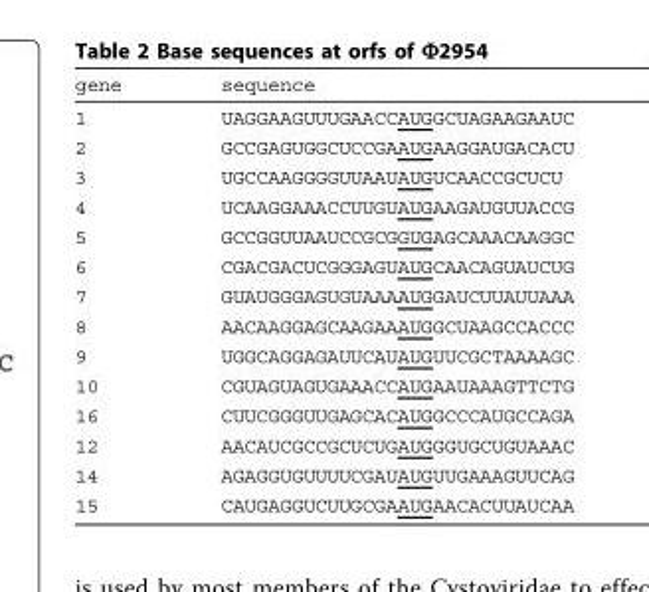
<table><thead><tr><td>gene</td><td>sequence</td></tr></thead><tbody><tr><td>1</td><td>UAGGAAGUUUGAACCAUGGCUAGAAGAAUC</td></tr><tr><td>2</td><td>GCCGAGUGGCUCCGAAUGAAGGAUGACACU</td></tr><tr><td>3</td><td>UGCCAAGGGGUUAAUAUGUCAACCGCUCU</td></tr><tr><td>4</td><td>UCAAGGAAACCUUGUAUGAAGAUGUUACCG</td></tr><tr><td>5</td><td>GCCGGUUAAUCCGCGGUGAGCAAACAAGGC</td></tr><tr><td>6</td><td>CGACGACUCGGGAGUAUGCAACAGUAUCUG</td></tr><tr><td>7</td><td>GUAUGGGAGUGUAAAAUGGAUCUUAUUAAA</td></tr><tr><td>8</td><td>AACAAGGAGCAAGAAAUGGCUAAGCCACCC</td></tr><tr><td>9</td><td>UGGCAGGAGAUUCAUAUGUUCGCTAAAAGC</td></tr><tr><td>10</td><td>CGUAGUAGUGAAACCAUGAAUAAAGTTCTG</td></tr><tr><td>16</td><td>CUUCGGGUUGAGCACAUGGCCCAUGCCAGA</td></tr><tr><td>12</td><td>AACAUCGCCGCUCUGAUGGGUGCUGUAAAC</td></tr><tr><td>14</td><td>AGAGGUGUUUUCGAUAUGUUGAAAGUUCAG</td></tr><tr><td>15</td><td>CAUGAGGUCUUGCGAAUGAACACUUAUCAA</td></tr></tbody></table>